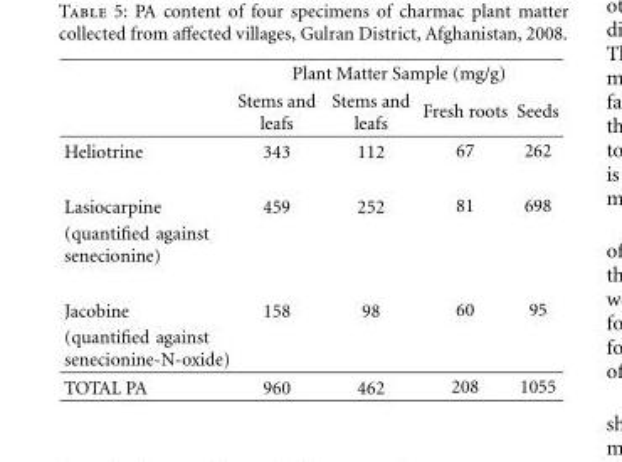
<table><thead><tr><td rowspan="2"></td><td colspan="4">Plant Matter Sample (mg/g)</td></tr><tr><td>Stems and leafs</td><td>Stems and leafs</td><td>Fresh roots</td><td>Seeds</td></tr></thead><tbody><tr><td>Heliotrine</td><td>343</td><td>112</td><td>67</td><td>262</td></tr><tr><td>Lasiocarpine</td><td>459</td><td>252</td><td>81</td><td>698</td></tr><tr><td colspan="5">(quantified against senecionine)</td></tr><tr><td>Jacobine</td><td>158</td><td>98</td><td>60</td><td>95</td></tr><tr><td colspan="5">(quantified against senecionine-N-oxide)</td></tr><tr><td>TOTAL PA</td><td>960</td><td>462</td><td>208</td><td>1055</td></tr></tbody></table>